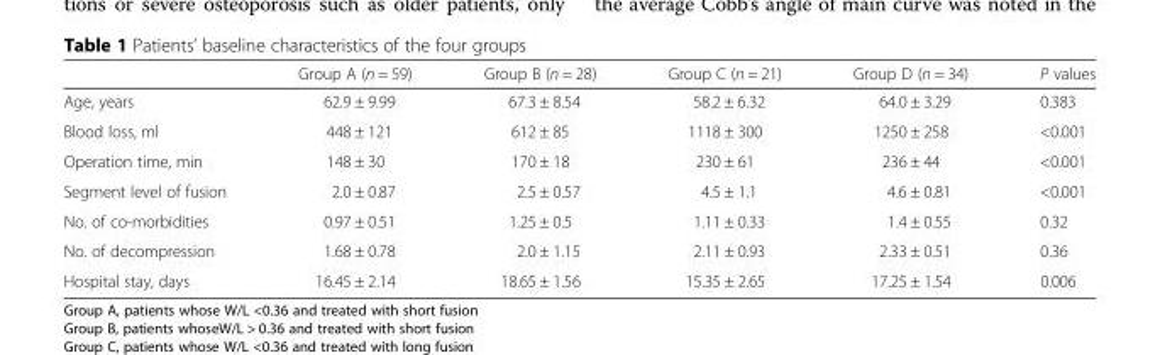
<table><thead><tr><td></td><td>Group A (n = 59)</td><td>Group B (n = 28)</td><td>Group C (n = 21)</td><td>Group D (n = 34)</td><td>P values</td></tr></thead><tbody><tr><td>Age, years</td><td>62.9 ± 9.99</td><td>67.3 ± 8.54</td><td>58.2 ± 6.32</td><td>64.0 ± 3.29</td><td>0.383</td></tr><tr><td>Blood loss, ml</td><td>448 ± 121</td><td>612 ± 85</td><td>1118 ± 300</td><td>1250 ± 258</td><td>&lt;0.001</td></tr><tr><td>Operation time, min</td><td>148 ± 30</td><td>170 ± 18</td><td>230 ± 61</td><td>236 ± 44</td><td>&lt;0.001</td></tr><tr><td>Segment level of fusion</td><td>2.0 ± 0.87</td><td>2.5 ± 0.57</td><td>4.5 ± 1.1</td><td>4.6 ± 0.81</td><td>&lt;0.001</td></tr><tr><td>No. of co-morbidities</td><td>0.97 ± 0.51</td><td>1.25 ± 0.5</td><td>1.11 ± 0.33</td><td>1.4 ± 0.55</td><td>0.32</td></tr><tr><td>No. of decompression</td><td>1.68 ± 0.78</td><td>2.0 ± 1.15</td><td>2.11 ± 0.93</td><td>2.33 ± 0.51</td><td>0.36</td></tr><tr><td>Hospital stay, days</td><td>16.45 ± 2.14</td><td>18.65 ± 1.56</td><td>15.35 ± 2.65</td><td>17.25 ± 1.54</td><td>0.006</td></tr></tbody></table>